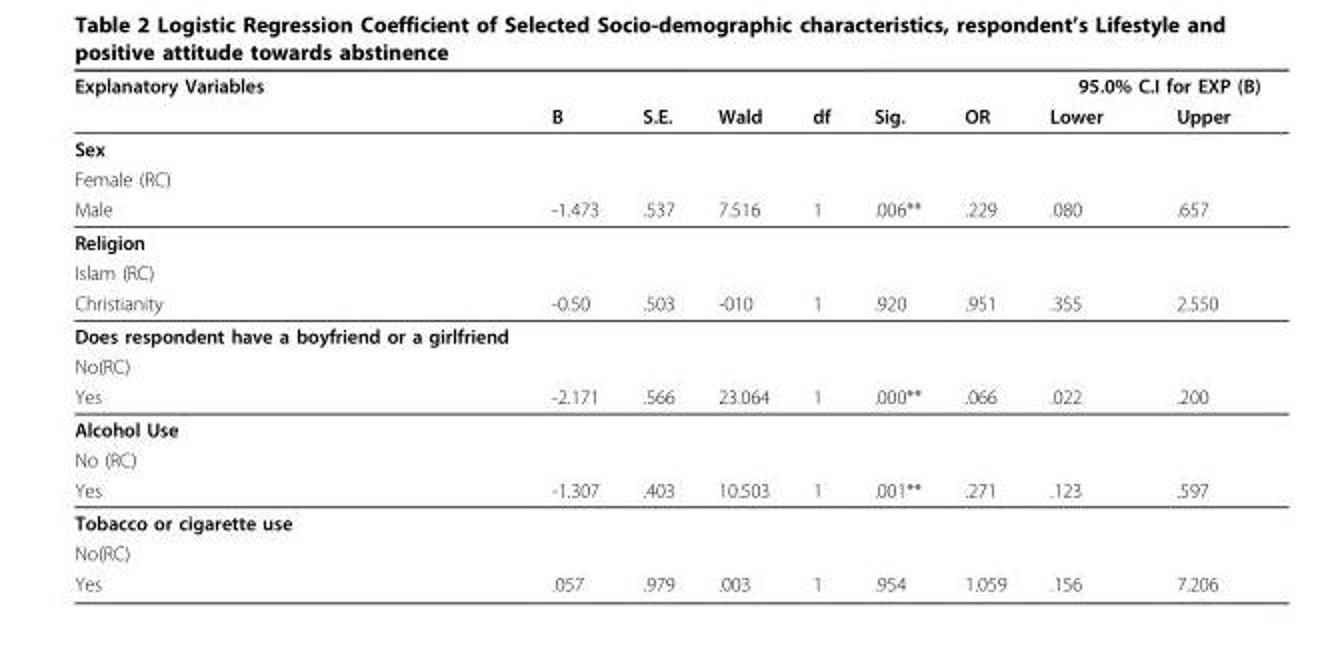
<table><thead><tr><td rowspan="2">Explanatory Variables</td><td rowspan="2">B</td><td rowspan="2">S.E.</td><td rowspan="2">Wald</td><td rowspan="2">df</td><td rowspan="2">Sig.</td><td rowspan="2">OR</td><td colspan="2">95.0% C.I for EXP (B)</td></tr><tr><td>Lower</td><td>Upper</td></tr></thead><tbody><tr><td colspan="9">Sex</td></tr><tr><td colspan="9">Female (RC)</td></tr><tr><td>Male</td><td>-1.473</td><td>.537</td><td>7.516</td><td>1</td><td>.006**</td><td>.229</td><td>.080</td><td>.657</td></tr><tr><td colspan="9">Religion</td></tr><tr><td colspan="9">Islam (RC)</td></tr><tr><td>Christianity</td><td>-0.50</td><td>.503</td><td>-010</td><td>1</td><td>.920</td><td>.951</td><td>.355</td><td>2.550</td></tr><tr><td colspan="9">Does respondent have a boyfriend or a girlfriend</td></tr><tr><td colspan="9">No(RC)</td></tr><tr><td>Yes</td><td>-2.171</td><td>.566</td><td>23.064</td><td>1</td><td>.000**</td><td>.066</td><td>.022</td><td>.200</td></tr><tr><td colspan="9">Alcohol Use</td></tr><tr><td colspan="9">No (RC)</td></tr><tr><td>Yes</td><td>-1.307</td><td>.403</td><td>10.503</td><td>1</td><td>.001**</td><td>.271</td><td>.123</td><td>.597</td></tr><tr><td colspan="9">Tobacco or cigarette use</td></tr><tr><td colspan="9">No(RC)</td></tr><tr><td>Yes</td><td>.057</td><td>.979</td><td>.003</td><td>1</td><td>.954</td><td>1.059</td><td>.156</td><td>7.206</td></tr></tbody></table>